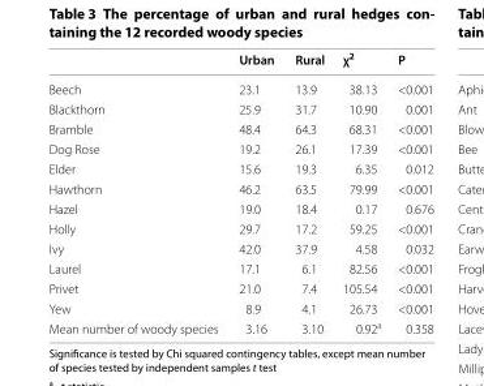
<table><thead><tr><td></td><td>Urban</td><td>Rural</td><td>χ<sup>2</sup></td><td>P</td></tr></thead><tbody><tr><td>Beech</td><td>23.1</td><td>13.9</td><td>38.13</td><td>&lt;0.001</td></tr><tr><td>Blackthorn</td><td>25.9</td><td>31.7</td><td>10.90</td><td>0.001</td></tr><tr><td>Bramble</td><td>48.4</td><td>64.3</td><td>68.31</td><td>&lt;0.001</td></tr><tr><td>Dog Rose</td><td>19.2</td><td>26.1</td><td>17.39</td><td>&lt;0.001</td></tr><tr><td>Elder</td><td>15.6</td><td>19.3</td><td>6.35</td><td>0.012</td></tr><tr><td>Hawthorn</td><td>46.2</td><td>63.5</td><td>79.99</td><td>&lt;0.001</td></tr><tr><td>Hazel</td><td>19.0</td><td>18.4</td><td>0.17</td><td>0.676</td></tr><tr><td>Holly</td><td>29.7</td><td>17.2</td><td>59.25</td><td>&lt;0.001</td></tr><tr><td>Ivy</td><td>42.0</td><td>37.9</td><td>4.58</td><td>0.032</td></tr><tr><td>Laurel</td><td>17.1</td><td>6.1</td><td>82.56</td><td>&lt;0.001</td></tr><tr><td>Privet</td><td>21.0</td><td>7.4</td><td>105.54</td><td>&lt;0.001</td></tr><tr><td>Yew</td><td>8.9</td><td>4.1</td><td>26.73</td><td>&lt;0.001</td></tr><tr><td>Mean number of woody species</td><td>3.16</td><td>3.10</td><td>0.92<sup>a</sup></td><td>0.358</td></tr></tbody></table>